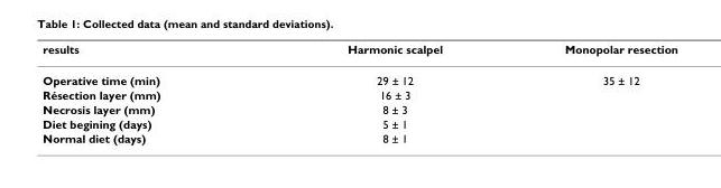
<table><thead><tr><td>results</td><td>Harmonic scalpel</td><td>Monopolar resection</td></tr></thead><tbody><tr><td>Operative time (min)</td><td>29 ± 12</td><td>35 ± 12</td></tr><tr><td>Résection layer (mm)</td><td>16 ± 3</td><td></td></tr><tr><td>Necrosis layer (mm)</td><td>8 ± 3</td><td></td></tr><tr><td>Diet begining (days)</td><td>5 ± 1</td><td></td></tr><tr><td>Normal diet (days)</td><td>8 ± 1</td><td></td></tr></tbody></table>